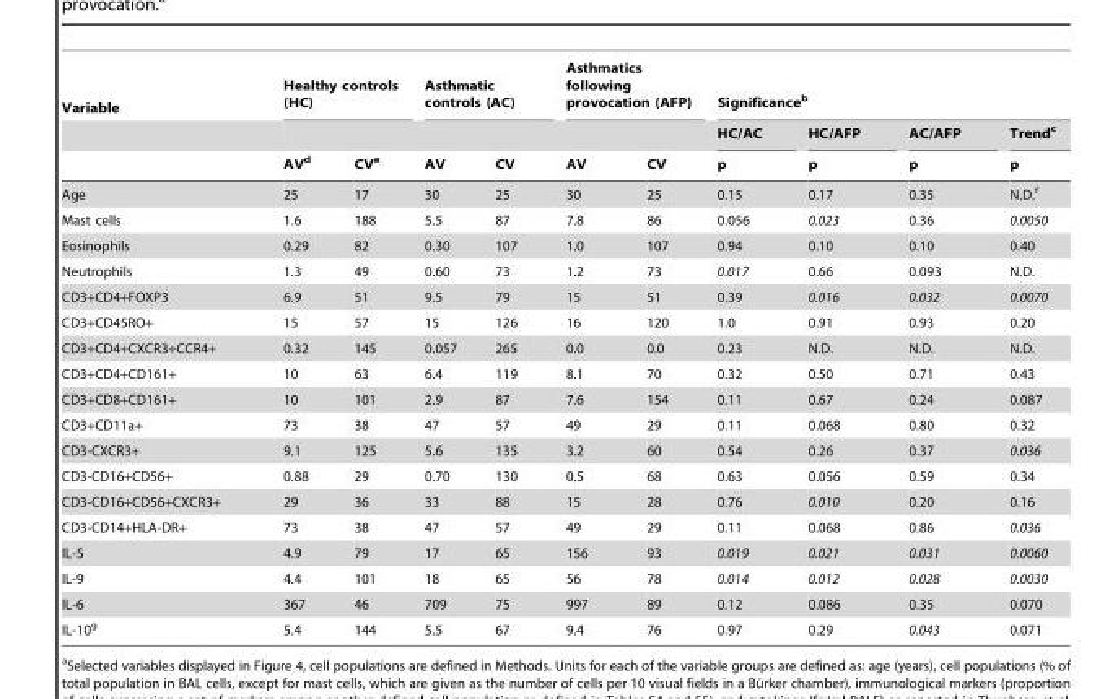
<table><thead><tr><td rowspan="3">Variable</td><td colspan="2">Healthy controls (HC)</td><td colspan="2">Asthmatic controls (AC)</td><td colspan="2">Asthmatics following provocation (AFP)</td><td colspan="4">Significance<sup>b</sup></td></tr><tr><td rowspan="2">AV<sup>d</sup></td><td rowspan="2">CV<sup>e</sup></td><td rowspan="2">AV</td><td rowspan="2">CV</td><td rowspan="2">AV</td><td rowspan="2">CV</td><td rowspan="2">HC/AC p</td><td rowspan="2">HC/AFP p</td><td rowspan="2">AC/AFP p</td><td rowspan="2">Trend<sup>c</sup> p</td></tr><tr></tr></thead><tbody><tr><td>Age</td><td>25</td><td>17</td><td>30</td><td>25</td><td>30</td><td>25</td><td>0.15</td><td>0.17</td><td>0.35</td><td>N.D.<sup>f</sup></td></tr><tr><td>Mast cells</td><td>1.6</td><td>188</td><td>5.5</td><td>87</td><td>7.8</td><td>86</td><td>0.056</td><td>0.023</td><td>0.36</td><td>0.0050</td></tr><tr><td>Eosinophils</td><td>0.29</td><td>82</td><td>0.30</td><td>107</td><td>1.0</td><td>107</td><td>0.94</td><td>0.10</td><td>0.10</td><td>0.40</td></tr><tr><td>Neutrophils</td><td>1.3</td><td>49</td><td>0.60</td><td>73</td><td>1.2</td><td>73</td><td>0.017</td><td>0.66</td><td>0.093</td><td>N.D.</td></tr><tr><td>CD3+CD4+FOXP3</td><td>6.9</td><td>51</td><td>9.5</td><td>79</td><td>15</td><td>51</td><td>0.39</td><td>0.016</td><td>0.032</td><td>0.0070</td></tr><tr><td>CD3+CD45RO+</td><td>15</td><td>57</td><td>15</td><td>126</td><td>16</td><td>120</td><td>1.0</td><td>0.91</td><td>0.93</td><td>0.20</td></tr><tr><td>CD3+CD4+CXCR3+CCR4+</td><td>0.32</td><td>145</td><td>0.057</td><td>265</td><td>0.0</td><td>0.0</td><td>0.23</td><td>N.D.</td><td>N.D.</td><td>N.D.</td></tr><tr><td>CD3+CD4+CD161+</td><td>10</td><td>63</td><td>6.4</td><td>119</td><td>8.1</td><td>70</td><td>0.32</td><td>0.50</td><td>0.71</td><td>0.43</td></tr><tr><td>CD3+CD8+CD161+</td><td>10</td><td>101</td><td>2.9</td><td>87</td><td>7.6</td><td>154</td><td>0.11</td><td>0.67</td><td>0.24</td><td>0.087</td></tr><tr><td>CD3+CD11a+</td><td>73</td><td>38</td><td>47</td><td>57</td><td>49</td><td>29</td><td>0.11</td><td>0.068</td><td>0.80</td><td>0.32</td></tr><tr><td>CD3-CXCR3+</td><td>9.1</td><td>125</td><td>5.6</td><td>135</td><td>3.2</td><td>60</td><td>0.54</td><td>0.26</td><td>0.37</td><td>0.036</td></tr><tr><td>CD3-CD16+CD56+</td><td>0.88</td><td>29</td><td>0.70</td><td>130</td><td>0.5</td><td>68</td><td>0.63</td><td>0.056</td><td>0.59</td><td>0.34</td></tr><tr><td>CD3-CD16+CD56+CXCR3+</td><td>29</td><td>36</td><td>33</td><td>88</td><td>15</td><td>28</td><td>0.76</td><td>0.010</td><td>0.20</td><td>0.16</td></tr><tr><td>CD3-CD14+HLA-DR+</td><td>73</td><td>38</td><td>47</td><td>57</td><td>49</td><td>29</td><td>0.11</td><td>0.068</td><td>0.86</td><td>0.036</td></tr><tr><td>IL-5</td><td>4.9</td><td>79</td><td>17</td><td>65</td><td>156</td><td>93</td><td>0.019</td><td>0.021</td><td>0.031</td><td>0.0060</td></tr><tr><td>IL-9</td><td>4.4</td><td>101</td><td>18</td><td>65</td><td>56</td><td>78</td><td>0.014</td><td>0.012</td><td>0.028</td><td>0.0030</td></tr><tr><td>IL-6</td><td>367</td><td>46</td><td>709</td><td>75</td><td>997</td><td>89</td><td>0.12</td><td>0.086</td><td>0.35</td><td>0.070</td></tr><tr><td>IL-10<sup>g</sup></td><td>5.4</td><td>144</td><td>5.5</td><td>67</td><td>9.4</td><td>76</td><td>0.97</td><td>0.29</td><td>0.043</td><td>0.071</td></tr></tbody></table>